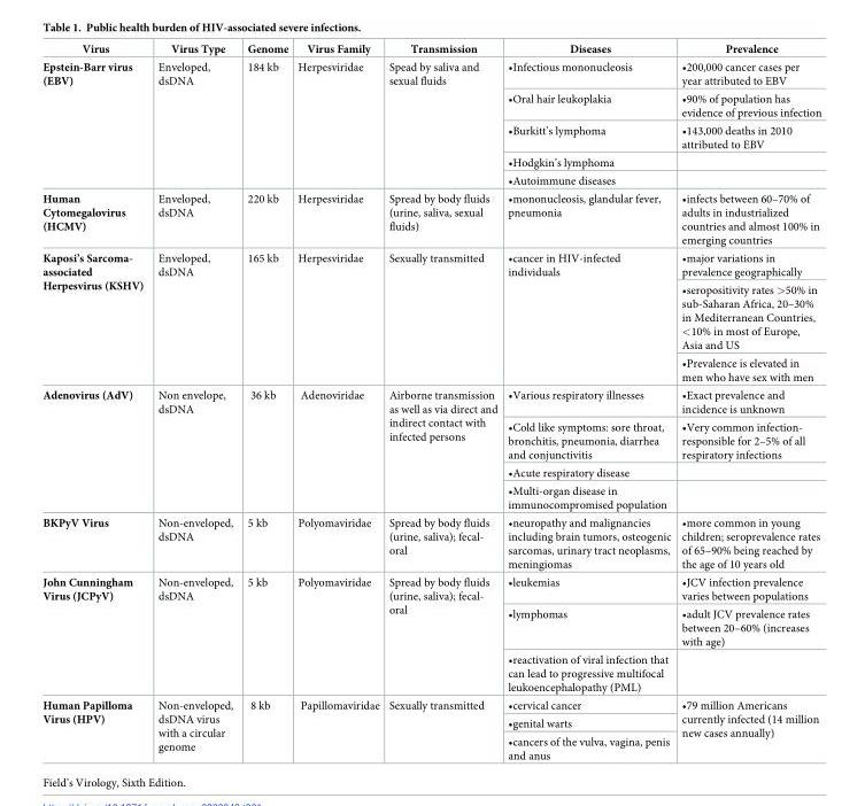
<table><thead><tr><td>Virus</td><td>Virus Type</td><td>Genome</td><td>Virus Family</td><td>Transmission</td><td>Diseases</td><td>Prevalence</td></tr></thead><tbody><tr><td rowspan="5">Epstein-Barr virus (EBV)</td><td rowspan="5">Enveloped, dsDNA</td><td rowspan="5">184 kb</td><td rowspan="5">Herpesviridae</td><td rowspan="5">Spead by saliva and sexual fluids</td><td>•Infectious mononucleosis</td><td>•200,000 cancer cases per year attributed to EBV</td></tr><tr><td>•Oral hair leukoplakia</td><td>•90% of population has evidence of previous infection</td></tr><tr><td>•Burkitt’s lymphoma</td><td>•143,000 deaths in 2010 attributed to EBV</td></tr><tr><td>•Hodgkin’s lymphoma</td><td></td></tr><tr><td>•Autoimmune diseases</td><td></td></tr><tr><td>Human Cytomegalovirus (HCMV)</td><td>Enveloped, dsDNA</td><td>220 kb</td><td>Herpesviridae</td><td>Spread by body fluids (urine, saliva, sexual fluids)</td><td>•mononucleosis, glandular fever, pneumonia</td><td>•infects between 60–70% of adults in industrialized countries and almost 100% in emerging countries</td></tr><tr><td rowspan="3">Kaposi’s Sarcoma- associated Herpesvirus (KSHV)</td><td rowspan="3">Enveloped, dsDNA</td><td rowspan="3">165 kb</td><td rowspan="3">Herpesviridae</td><td rowspan="3">Sexually transmitted</td><td rowspan="3">•cancer in HIV-infected individuals</td><td>•major variations in prevalence geographically</td></tr><tr><td>•seropositivity rates &gt;50% in sub-Saharan Africa, 20–30% in Mediterranean Countries, &lt;10% in most of Europe, Asia and US</td></tr><tr><td>•Prevalence is elevated in men who have sex with men</td></tr><tr><td rowspan="4">Adenovirus (AdV)</td><td rowspan="4">Non envelope, dsDNA</td><td rowspan="4">36 kb</td><td rowspan="4">Adenoviridae</td><td rowspan="4">Airborne transmission as well as via direct and indirect contact with infected persons</td><td>•Various respiratory illnesses</td><td>•Exact prevalence and incidence is unknown</td></tr><tr><td>•Cold like symptoms: sore throat, bronchitis, pneumonia, diarrhea and conjunctivitis</td><td>•Very common infection- responsible for 2–5% of all respiratory infections</td></tr><tr><td>•Acute respiratory disease</td><td></td></tr><tr><td>•Multi-organ disease in immunocompromised population</td><td></td></tr><tr><td>BKPyV Virus</td><td>Non-enveloped, dsDNA</td><td>5 kb</td><td>Polyomaviridae</td><td>Spread by body fluids (urine, saliva); fecal- oral</td><td>•neuropathy and malignancies including brain tumors, osteogenic sarcomas, urinary tract neoplasms, meningiomas</td><td>•more common in young children; seroprevalence rates of 65–90% being reached by the age of 10 years old</td></tr><tr><td rowspan="3">John Cunningham Virus (JCPyV)</td><td rowspan="3">Non-enveloped, dsDNA</td><td rowspan="3">5 kb</td><td rowspan="3">Polyomaviridae</td><td rowspan="3">Spread by body fluids (urine, saliva); fecal- oral</td><td>•leukemias</td><td>•JCV infection prevalence varies between populations</td></tr><tr><td>•lymphomas</td><td>•adult JCV prevalence rates between 20–60% (increases with age)</td></tr><tr><td>•reactivation of viral infection that can lead to progressive multifocal leukoencephalopathy (PML)</td><td></td></tr><tr><td rowspan="3">Human Papilloma Virus (HPV)</td><td rowspan="3">Non-enveloped, dsDNA virus with a circular genome</td><td rowspan="3">8 kb</td><td rowspan="3">Papillomaviridae</td><td rowspan="3">Sexually transmitted</td><td>•cervical cancer</td><td rowspan="3">•79 million Americans currently infected (14 million new cases annually)</td></tr><tr><td>•genital warts</td></tr><tr><td>•cancers of the vulva, vagina, penis and anus</td></tr></tbody></table>